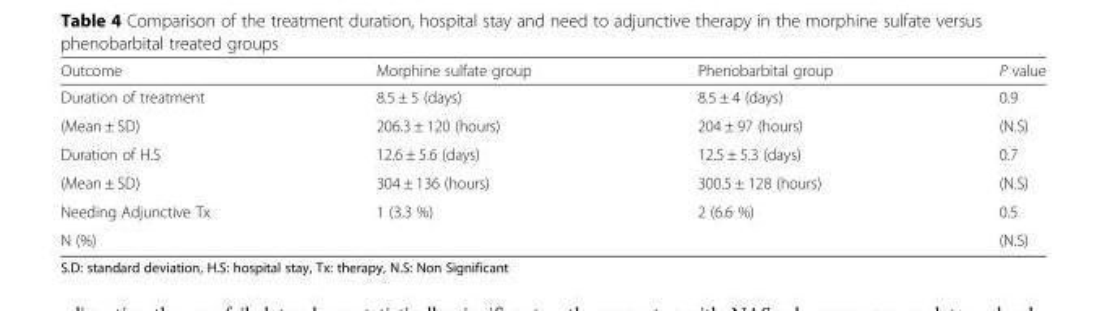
<table><thead><tr><td>Outcome</td><td>Morphine sulfate group</td><td>Phenobarbital group</td><td>P value</td></tr></thead><tbody><tr><td>Duration of treatment</td><td>8.5 ± 5 (days)</td><td>8.5 ± 4 (days)</td><td>0.9</td></tr><tr><td>(Mean ± SD)</td><td>206.3 ± 120 (hours)</td><td>204 ± 97 (hours)</td><td>(N.S)</td></tr><tr><td>Duration of H.S</td><td>12.6 ± 5.6 (days)</td><td>12.5 ± 5.3 (days)</td><td>0.7</td></tr><tr><td>(Mean ± SD)</td><td>304 ± 136 (hours)</td><td>300.5 ± 128 (hours)</td><td>(N.S)</td></tr><tr><td>Needing Adjunctive Tx</td><td rowspan="2">1 (3.3 %)</td><td rowspan="2">2 (6.6 %)</td><td>0.5</td></tr><tr><td>N (%)</td><td>(N.S)</td></tr></tbody></table>